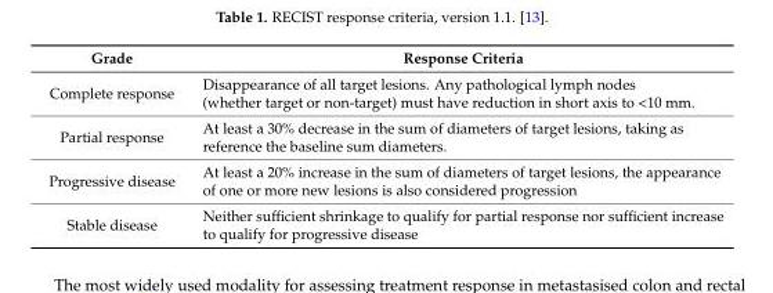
<table><thead><tr><td>Grade</td><td>Response Criteria</td></tr></thead><tbody><tr><td>Complete response</td><td>Disappearance of all target lesions. Any pathological lymph nodes (whether target or non-target) must have reduction in short axis to &lt;10 mm.</td></tr><tr><td>Partial response</td><td>At least a 30% decrease in the sum of diameters of target lesions, taking as reference the baseline sum diameters.</td></tr><tr><td>Progressive disease</td><td>At least a 20% increase in the sum of diameters of target lesions, the appearance of one or more new lesions is also considered progression</td></tr><tr><td>Stable disease</td><td>Neither sufficient shrinkage to qualify for partial response nor sufficient increase to qualify for progressive disease</td></tr></tbody></table>